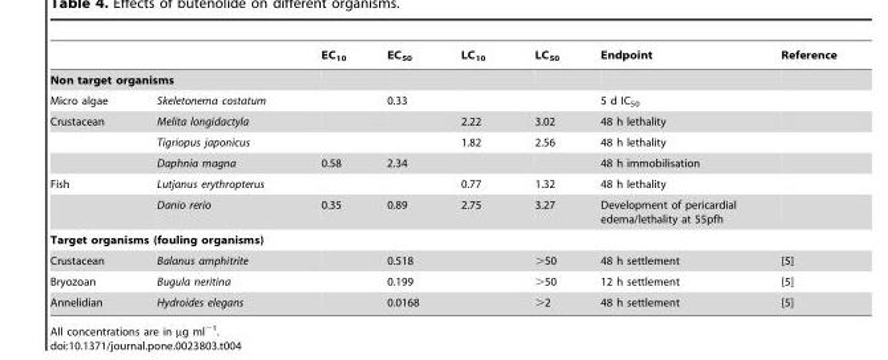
<table><thead><tr><td></td><td></td><td>EC<sub>10</sub></td><td>EC<sub>50</sub></td><td>LC<sub>10</sub></td><td>LC<sub>50</sub></td><td>Endpoint</td><td>Reference</td></tr></thead><tbody><tr><td colspan="8">Non target organisms</td></tr><tr><td>Micro algae</td><td>Skeletonema costatum</td><td></td><td>0.33</td><td></td><td></td><td>5 d IC<sub>50</sub></td><td></td></tr><tr><td rowspan="3">Crustacean</td><td>Melita longidactyla</td><td></td><td></td><td>2.22</td><td>3.02</td><td>48 h lethality</td><td></td></tr><tr><td>Tigriopus japonicus</td><td></td><td></td><td>1.82</td><td>2.56</td><td>48 h lethality</td><td></td></tr><tr><td>Daphnia magna</td><td>0.58</td><td>2.34</td><td></td><td></td><td>48 h immobilisation</td><td></td></tr><tr><td rowspan="2">Fish</td><td>Lutjanus erythropterus</td><td></td><td></td><td>0.77</td><td>1.32</td><td>48 h lethality</td><td></td></tr><tr><td>Danio rerio</td><td>0.35</td><td>0.89</td><td>2.75</td><td>3.27</td><td>Development of pericardial edema/lethality at 55pfh</td><td></td></tr><tr><td colspan="8">Target organisms (fouling organisms)</td></tr><tr><td>Crustacean</td><td>Balanus amphitrite</td><td></td><td>0.518</td><td></td><td>&gt;50</td><td>48 h settlement</td><td>[5]</td></tr><tr><td>Bryozoan</td><td>Bugula neritina</td><td></td><td>0.199</td><td></td><td>&gt;50</td><td>12 h settlement</td><td>[5]</td></tr><tr><td>Annelidian</td><td>Hydroides elegans</td><td></td><td>0.0168</td><td></td><td>&gt;2</td><td>48 h settlement</td><td>[5]</td></tr></tbody></table>